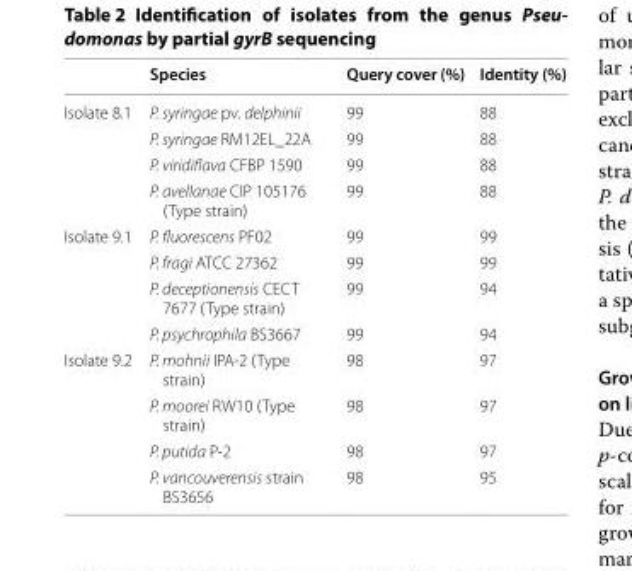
<table><thead><tr><td></td><td>Species</td><td>Query cover (%)</td><td>Identity (%)</td></tr></thead><tbody><tr><td rowspan="4">Isolate 8.1</td><td>P. syringae pv. delphinii</td><td>99</td><td>88</td></tr><tr><td>P. syringae RM12EL_22A</td><td>99</td><td>88</td></tr><tr><td>P. viridiflava CFBP 1590</td><td>99</td><td>88</td></tr><tr><td>P. avellanae CIP 105176 (Type strain)</td><td>99</td><td>88</td></tr><tr><td rowspan="4">Isolate 9.1</td><td>P. fluorescens PF02</td><td>99</td><td>99</td></tr><tr><td>P. fragi ATCC 27362</td><td>99</td><td>99</td></tr><tr><td>P. deceptionensis CECT 7677 (Type strain)</td><td>99</td><td>94</td></tr><tr><td>P. psychrophila BS3667</td><td>99</td><td>94</td></tr><tr><td rowspan="4">Isolate 9.2</td><td>P. mohnii IPA‑2 (Type strain)</td><td>98</td><td>97</td></tr><tr><td>P. moorei RW10 (Type strain)</td><td>98</td><td>97</td></tr><tr><td>P. putida P‑2</td><td>98</td><td>97</td></tr><tr><td>P. vancouverensis strain BS3656</td><td>98</td><td>95</td></tr></tbody></table>